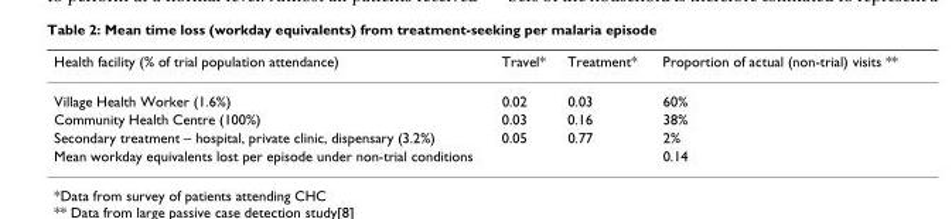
<table><thead><tr><td>Health facility (% of trial population attendance)</td><td>Travel*</td><td>Treatment*</td><td>Proportion of actual (non-trial) visits **</td></tr></thead><tbody><tr><td>Village Health Worker (1.6%)</td><td>0.02</td><td>0.03</td><td>60%</td></tr><tr><td>Community Health Centre (100%)</td><td>0.03</td><td>0.16</td><td>38%</td></tr><tr><td>Secondary treatment – hospital, private clinic, dispensary (3.2%)</td><td>0.05</td><td>0.77</td><td>2%</td></tr><tr><td colspan="3">Mean workday equivalents lost per episode under non-trial conditions</td><td>0.14</td></tr></tbody></table>